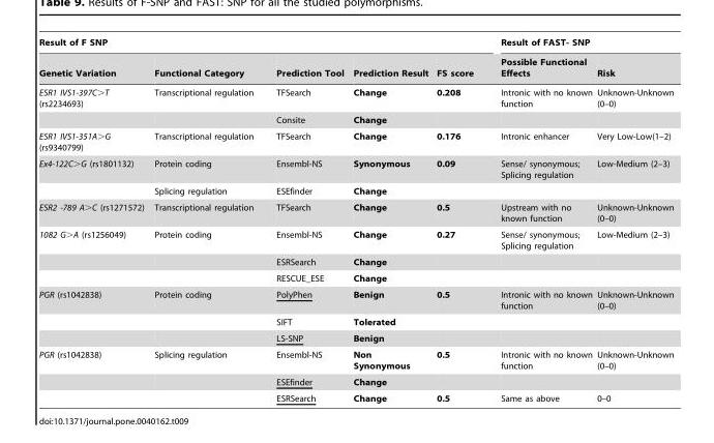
<table><thead><tr><td colspan="5">Result of F SNP</td><td colspan="2">Result of FAST- SNP</td></tr><tr><td>Genetic Variation</td><td>Functional Category</td><td>Prediction Tool</td><td>Prediction Result</td><td>FS score</td><td>Possible Functional Effects</td><td>Risk</td></tr></thead><tbody><tr><td rowspan="2">ESR1 IVS1-397C&gt;T (rs2234693)</td><td>Transcriptional regulation</td><td>TFSearch</td><td>Change</td><td>0.208</td><td>Intronic with no known function</td><td>Unknown-Unknown (0–0)</td></tr><tr><td></td><td>Consite</td><td>Change</td><td></td><td></td><td></td></tr><tr><td>ESR1 IVS1-351A&gt;G (rs9340799)</td><td>Transcriptional regulation</td><td>TFSearch</td><td>Change</td><td>0.176</td><td>Intronic enhancer</td><td>Very Low-Low(1–2)</td></tr><tr><td rowspan="2">Ex4-122C&gt;G (rs1801132)</td><td>Protein coding</td><td>Ensembl-NS</td><td>Synonymous</td><td>0.09</td><td>Sense/ synonymous; Splicing regulation</td><td>Low-Medium (2–3)</td></tr><tr><td>Splicing regulation</td><td>ESEfinder</td><td>Change</td><td></td><td></td><td></td></tr><tr><td>ESR2 -789 A&gt;C (rs1271572)</td><td>Transcriptional regulation</td><td>TFSearch</td><td>Change</td><td>0.5</td><td>Upstream with no known function</td><td>Unknown-Unknown (0–0)</td></tr><tr><td rowspan="3">1082 G&gt;A (rs1256049)</td><td>Protein coding</td><td>Ensembl-NS</td><td>Change</td><td>0.27</td><td>Sense/ synonymous; Splicing regulation</td><td>Low-Medium (2–3)</td></tr><tr><td></td><td>ESRSearch</td><td>Change</td><td></td><td></td><td></td></tr><tr><td></td><td>RESCUE_ESE</td><td>Change</td><td></td><td></td><td></td></tr><tr><td rowspan="3">PGR (rs1042838)</td><td>Protein coding</td><td>PolyPhen</td><td>Benign</td><td>0.5</td><td>Intronic with no known function</td><td>Unknown-Unknown (0–0)</td></tr><tr><td></td><td>SIFT</td><td>Tolerated</td><td></td><td></td><td></td></tr><tr><td></td><td>LS-SNP</td><td>Benign</td><td></td><td></td><td></td></tr><tr><td rowspan="3">PGR (rs1042838)</td><td>Splicing regulation</td><td>Ensembl-NS</td><td>Non Synonymous</td><td>0.5</td><td>Intronic with no known function</td><td>Unknown-Unknown (0–0)</td></tr><tr><td></td><td>ESEfinder</td><td>Change</td><td></td><td></td><td></td></tr><tr><td></td><td>ESRSearch</td><td>Change</td><td>0.5</td><td>Same as above</td><td>0–0</td></tr></tbody></table>